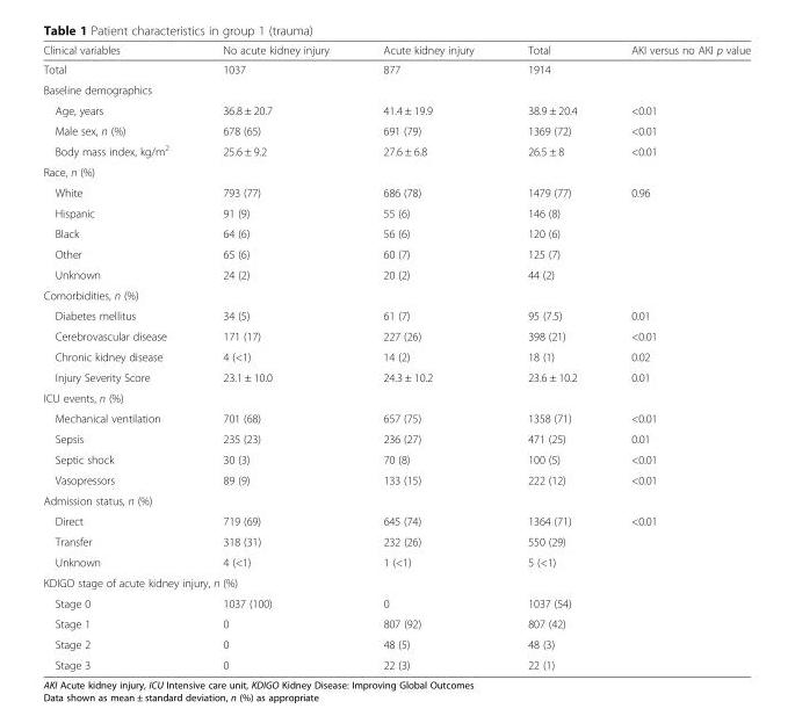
<table><thead><tr><td>Clinical variables</td><td>No acute kidney injury</td><td>Acute kidney injury</td><td>Total</td><td>AKI versus no AKI p value</td></tr></thead><tbody><tr><td>Total</td><td>1037</td><td>877</td><td>1914</td><td></td></tr><tr><td colspan="5">Baseline demographics</td></tr><tr><td>Age, years</td><td>36.8 ± 20.7</td><td>41.4 ± 19.9</td><td>38.9 ± 20.4</td><td>&lt;0.01</td></tr><tr><td>Male sex, n (%)</td><td>678 (65)</td><td>691 (79)</td><td>1369 (72)</td><td>&lt;0.01</td></tr><tr><td>Body mass index, kg/m<sup>2</sup></td><td>25.6 ± 9.2</td><td>27.6 ± 6.8</td><td>26.5 ± 8</td><td>&lt;0.01</td></tr><tr><td colspan="5">Race, n (%)</td></tr><tr><td>White</td><td>793 (77)</td><td>686 (78)</td><td>1479 (77)</td><td>0.96</td></tr><tr><td>Hispanic</td><td>91 (9)</td><td>55 (6)</td><td>146 (8)</td><td></td></tr><tr><td>Black</td><td>64 (6)</td><td>56 (6)</td><td>120 (6)</td><td></td></tr><tr><td>Other</td><td>65 (6)</td><td>60 (7)</td><td>125 (7)</td><td></td></tr><tr><td>Unknown</td><td>24 (2)</td><td>20 (2)</td><td>44 (2)</td><td></td></tr><tr><td colspan="5">Comorbidities, n (%)</td></tr><tr><td>Diabetes mellitus</td><td>34 (5)</td><td>61 (7)</td><td>95 (7.5)</td><td>0.01</td></tr><tr><td>Cerebrovascular disease</td><td>171 (17)</td><td>227 (26)</td><td>398 (21)</td><td>&lt;0.01</td></tr><tr><td>Chronic kidney disease</td><td>4 (&lt;1)</td><td>14 (2)</td><td>18 (1)</td><td>0.02</td></tr><tr><td>Injury Severity Score</td><td>23.1 ± 10.0</td><td>24.3 ± 10.2</td><td>23.6 ± 10.2</td><td>0.01</td></tr><tr><td colspan="5">ICU events, n (%)</td></tr><tr><td>Mechanical ventilation</td><td>701 (68)</td><td>657 (75)</td><td>1358 (71)</td><td>&lt;0.01</td></tr><tr><td>Sepsis</td><td>235 (23)</td><td>236 (27)</td><td>471 (25)</td><td>0.01</td></tr><tr><td>Septic shock</td><td>30 (3)</td><td>70 (8)</td><td>100 (5)</td><td>&lt;0.01</td></tr><tr><td>Vasopressors</td><td>89 (9)</td><td>133 (15)</td><td>222 (12)</td><td>&lt;0.01</td></tr><tr><td colspan="5">Admission status, n (%)</td></tr><tr><td>Direct</td><td>719 (69)</td><td>645 (74)</td><td>1364 (71)</td><td>&lt;0.01</td></tr><tr><td>Transfer</td><td>318 (31)</td><td>232 (26)</td><td>550 (29)</td><td></td></tr><tr><td>Unknown</td><td>4 (&lt;1)</td><td>1 (&lt;1)</td><td>5 (&lt;1)</td><td></td></tr><tr><td colspan="5">KDIGO stage of acute kidney injury, n (%)</td></tr><tr><td>Stage 0</td><td>1037 (100)</td><td>0</td><td>1037 (54)</td><td></td></tr><tr><td>Stage 1</td><td>0</td><td>807 (92)</td><td>807 (42)</td><td></td></tr><tr><td>Stage 2</td><td>0</td><td>48 (5)</td><td>48 (3)</td><td></td></tr><tr><td>Stage 3</td><td>0</td><td>22 (3)</td><td>22 (1)</td><td></td></tr></tbody></table>